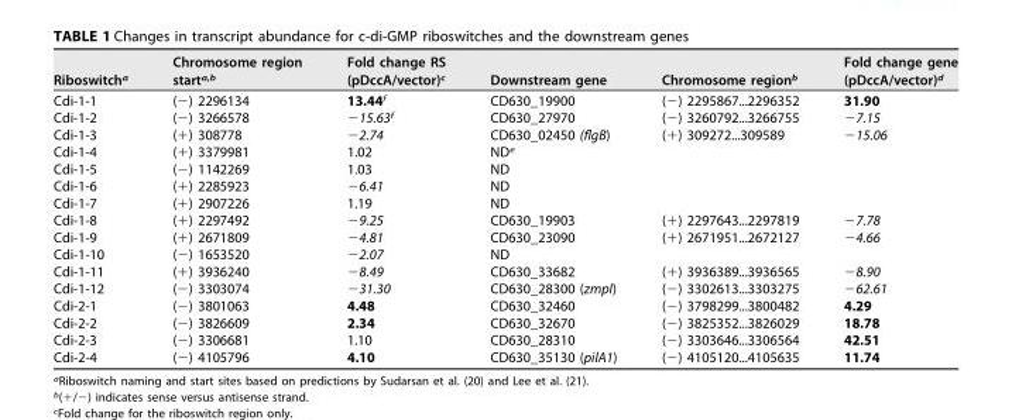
<table><thead><tr><td>Riboswitch<sup>a</sup></td><td>Chromosome region start<sup>a,b</sup></td><td>Fold change RS (pDccA/vector)<sup>c</sup></td><td>Downstream gene</td><td>Chromosome region<sup>b</sup></td><td>Fold change gene (pDccA/vector)<sup>d</sup></td></tr></thead><tbody><tr><td>Cdi-1-1</td><td>(−) 2296134</td><td>13.44<sup>f</sup></td><td>CD630_19900</td><td>(−) 2295867...2296352</td><td>31.90</td></tr><tr><td>Cdi-1-2</td><td>(−) 3266578</td><td>−15.63<sup>f</sup></td><td>CD630_27970</td><td>(−) 3260792...3266755</td><td>−7.15</td></tr><tr><td>Cdi-1-3</td><td>(+) 308778</td><td>−2.74</td><td>CD630_02450 (flgB)</td><td>(+) 309272...309589</td><td>−15.06</td></tr><tr><td>Cdi-1-4</td><td>(+) 3379981</td><td>1.02</td><td>ND<sup>e</sup></td><td></td><td></td></tr><tr><td>Cdi-1-5</td><td>(−) 1142269</td><td>1.03</td><td>ND</td><td></td><td></td></tr><tr><td>Cdi-1-6</td><td>(+) 2285923</td><td>−6.41</td><td>ND</td><td></td><td></td></tr><tr><td>Cdi-1-7</td><td>(+) 2907226</td><td>1.19</td><td>ND</td><td></td><td></td></tr><tr><td>Cdi-1-8</td><td>(+) 2297492</td><td>−9.25</td><td>CD630_19903</td><td>(+) 2297643...2297819</td><td>−7.78</td></tr><tr><td>Cdi-1-9</td><td>(+) 2671809</td><td>−4.81</td><td>CD630_23090</td><td>(+) 2671951...2672127</td><td>−4.66</td></tr><tr><td>Cdi-1-10</td><td>(−) 1653520</td><td>−2.07</td><td>ND</td><td></td><td></td></tr><tr><td>Cdi-1-11</td><td>(+) 3936240</td><td>−8.49</td><td>CD630_33682</td><td>(+) 3936389...3936565</td><td>−8.90</td></tr><tr><td>Cdi-1-12</td><td>(−) 3303074</td><td>−31.30</td><td>CD630_28300 (zmpI)</td><td>(−) 3302613...3303275</td><td>−62.61</td></tr><tr><td>Cdi-2-1</td><td>(−) 3801063</td><td>4.48</td><td>CD630_32460</td><td>(−) 3798299...3800482</td><td>4.29</td></tr><tr><td>Cdi-2-2</td><td>(−) 3826609</td><td>2.34</td><td>CD630_32670</td><td>(−) 3825352...3826029</td><td>18.78</td></tr><tr><td>Cdi-2-3</td><td>(−) 3306681</td><td>1.10</td><td>CD630_28310</td><td>(−) 3303646...3306564</td><td>42.51</td></tr><tr><td>Cdi-2-4</td><td>(−) 4105796</td><td>4.10</td><td>CD630_35130 (pilA1)</td><td>(−) 4105120...4105635</td><td>11.74</td></tr></tbody></table>